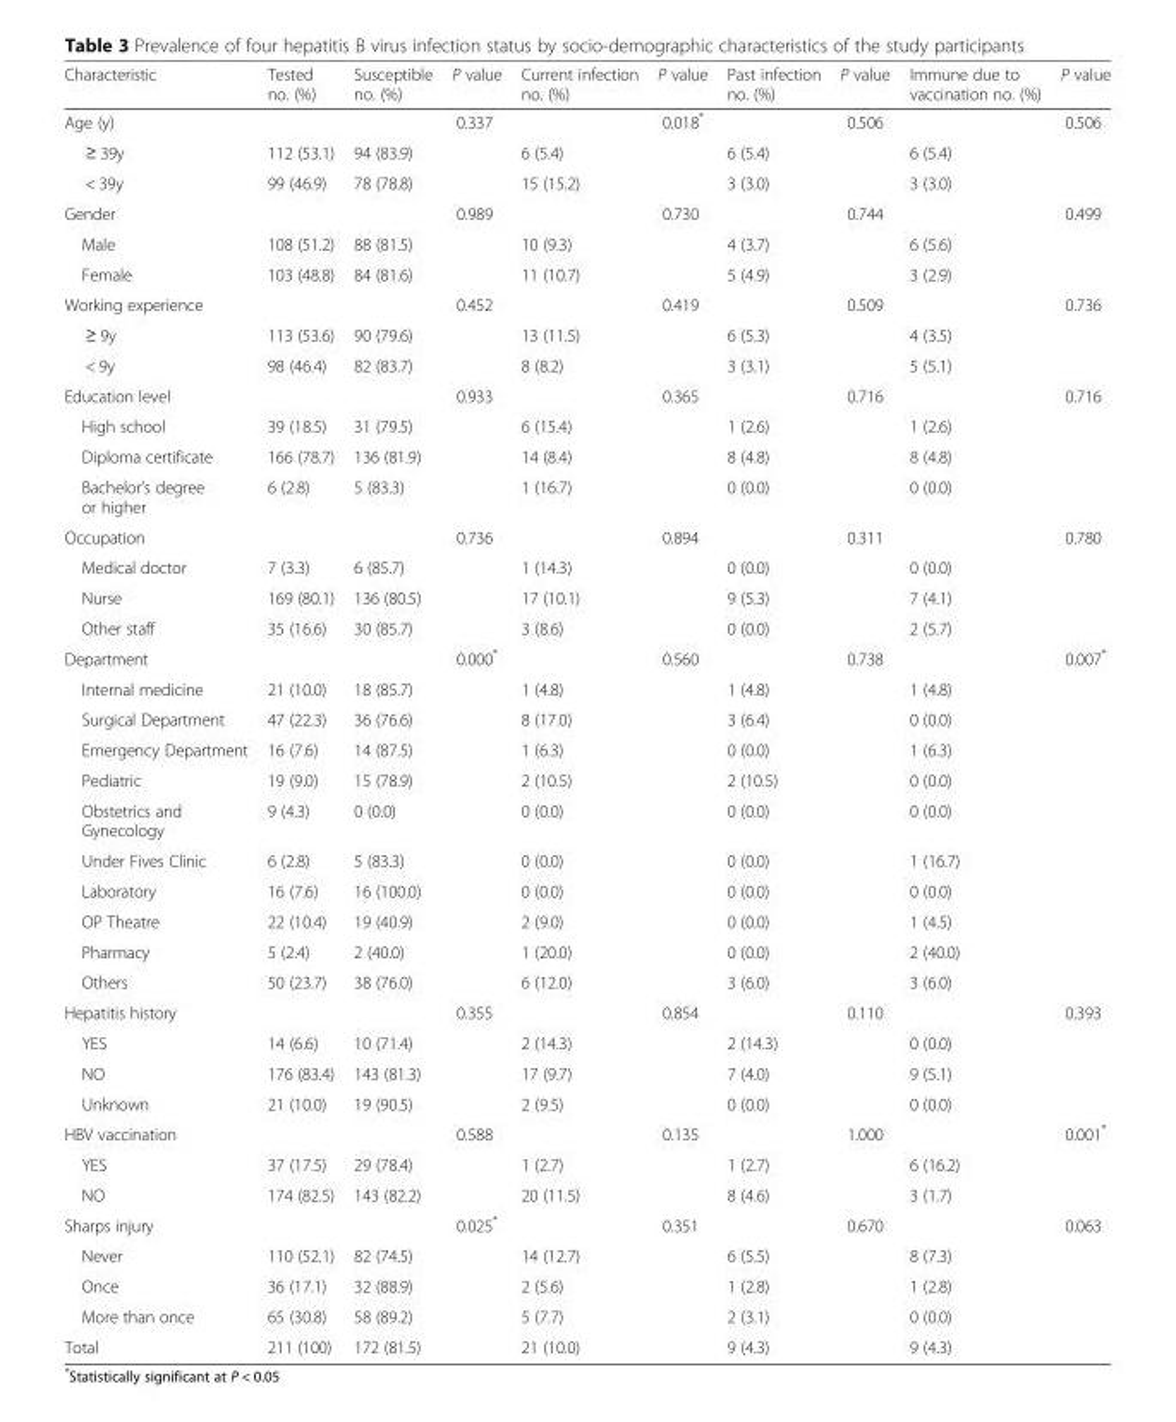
<table><thead><tr><td>Characteristic</td><td>Tested no. (%)</td><td>Susceptible no. (%)</td><td>P value</td><td>Current infection no. (%)</td><td>P value</td><td>Past infection no. (%)</td><td>P value</td><td>Immune due to vaccination no. (%)</td><td>P value</td></tr></thead><tbody><tr><td>Age (y)</td><td></td><td></td><td>0.337</td><td></td><td>0.018*</td><td></td><td>0.506</td><td></td><td>0.506</td></tr><tr><td>≥ 39y</td><td>112 (53.1)</td><td>94 (83.9)</td><td rowspan="2"></td><td>6 (5.4)</td><td rowspan="2"></td><td>6 (5.4)</td><td rowspan="2"></td><td>6 (5.4)</td><td rowspan="2"></td></tr><tr><td>&lt; 39y</td><td>99 (46.9)</td><td>78 (78.8)</td><td>15 (15.2)</td><td>3 (3.0)</td><td>3 (3.0)</td></tr><tr><td>Gender</td><td></td><td></td><td>0.989</td><td></td><td>0.730</td><td></td><td>0.744</td><td></td><td>0.499</td></tr><tr><td>Male</td><td>108 (51.2)</td><td>88 (81.5)</td><td rowspan="2"></td><td>10 (9.3)</td><td rowspan="2"></td><td>4 (3.7)</td><td rowspan="2"></td><td>6 (5.6)</td><td rowspan="2"></td></tr><tr><td>Female</td><td>103 (48.8)</td><td>84 (81.6)</td><td>11 (10.7)</td><td>5 (4.9)</td><td>3 (2.9)</td></tr><tr><td>Working experience</td><td></td><td></td><td>0.452</td><td></td><td>0.419</td><td></td><td>0.509</td><td></td><td>0.736</td></tr><tr><td>≥ 9y</td><td>113 (53.6)</td><td>90 (79.6)</td><td rowspan="2"></td><td>13 (11.5)</td><td rowspan="2"></td><td>6 (5.3)</td><td rowspan="2"></td><td>4 (3.5)</td><td rowspan="2"></td></tr><tr><td>&lt; 9y</td><td>98 (46.4)</td><td>82 (83.7)</td><td>8 (8.2)</td><td>3 (3.1)</td><td>5 (5.1)</td></tr><tr><td>Education level</td><td></td><td></td><td>0.933</td><td></td><td>0.365</td><td></td><td>0.716</td><td></td><td>0.716</td></tr><tr><td>High school</td><td>39 (18.5)</td><td>31 (79.5)</td><td rowspan="3"></td><td>6 (15.4)</td><td rowspan="3"></td><td>1 (2.6)</td><td rowspan="3"></td><td>1 (2.6)</td><td rowspan="3"></td></tr><tr><td>Diploma certificate</td><td>166 (78.7)</td><td>136 (81.9)</td><td>14 (8.4)</td><td>8 (4.8)</td><td>8 (4.8)</td></tr><tr><td>Bachelor’s degree or higher</td><td>6 (2.8)</td><td>5 (83.3)</td><td>1 (16.7)</td><td>0 (0.0)</td><td>0 (0.0)</td></tr><tr><td>Occupation</td><td></td><td></td><td>0.736</td><td></td><td>0.894</td><td></td><td>0.311</td><td></td><td>0.780</td></tr><tr><td>Medical doctor</td><td>7 (3.3)</td><td>6 (85.7)</td><td></td><td>1 (14.3)</td><td></td><td>0 (0.0)</td><td></td><td>0 (0.0)</td><td></td></tr><tr><td>Nurse</td><td>169 (80.1)</td><td>136 (80.5)</td><td rowspan="2"></td><td>17 (10.1)</td><td rowspan="2"></td><td>9 (5.3)</td><td rowspan="2"></td><td>7 (4.1)</td><td rowspan="2"></td></tr><tr><td>Other staff</td><td>35 (16.6)</td><td>30 (85.7)</td><td>3 (8.6)</td><td>0 (0.0)</td><td>2 (5.7)</td></tr><tr><td>Department</td><td></td><td></td><td>0.000*</td><td></td><td>0.560</td><td></td><td>0.738</td><td></td><td>0.007*</td></tr><tr><td>Internal medicine</td><td>21 (10.0)</td><td>18 (85.7)</td><td rowspan="10"></td><td>1 (4.8)</td><td rowspan="10"></td><td>1 (4.8)</td><td rowspan="10"></td><td>1 (4.8)</td><td rowspan="10"></td></tr><tr><td>Surgical Department</td><td>47 (22.3)</td><td>36 (76.6)</td><td>8 (17.0)</td><td>3 (6.4)</td><td>0 (0.0)</td></tr><tr><td>Emergency Department</td><td>16 (7.6)</td><td>14 (87.5)</td><td>1 (6.3)</td><td>0 (0.0)</td><td>1 (6.3)</td></tr><tr><td>Pediatric</td><td>19 (9.0)</td><td>15 (78.9)</td><td>2 (10.5)</td><td>2 (10.5)</td><td>0 (0.0)</td></tr><tr><td>Obstetrics and Gynecology</td><td>9 (4.3)</td><td>0 (0.0)</td><td>0 (0.0)</td><td>0 (0.0)</td><td>0 (0.0)</td></tr><tr><td>Under Fives Clinic</td><td>6 (2.8)</td><td>5 (83.3)</td><td>0 (0.0)</td><td>0 (0.0)</td><td>1 (16.7)</td></tr><tr><td>Laboratory</td><td>16 (7.6)</td><td>16 (100.0)</td><td>0 (0.0)</td><td>0 (0.0)</td><td>0 (0.0)</td></tr><tr><td>OP Theatre</td><td>22 (10.4)</td><td>19 (40.9)</td><td>2 (9.0)</td><td>0 (0.0)</td><td>1 (4.5)</td></tr><tr><td>Pharmacy</td><td>5 (2.4)</td><td>2 (40.0)</td><td>1 (20.0)</td><td>0 (0.0)</td><td>2 (40.0)</td></tr><tr><td>Others</td><td>50 (23.7)</td><td>38 (76.0)</td><td>6 (12.0)</td><td>3 (6.0)</td><td>3 (6.0)</td></tr><tr><td>Hepatitis history</td><td></td><td></td><td>0.355</td><td></td><td>0.854</td><td></td><td>0.110</td><td></td><td>0.393</td></tr><tr><td>YES</td><td>14 (6.6)</td><td>10 (71.4)</td><td rowspan="3"></td><td>2 (14.3)</td><td rowspan="3"></td><td>2 (14.3)</td><td rowspan="3"></td><td>0 (0.0)</td><td rowspan="3"></td></tr><tr><td>NO</td><td>176 (83.4)</td><td>143 (81.3)</td><td>17 (9.7)</td><td>7 (4.0)</td><td>9 (5.1)</td></tr><tr><td>Unknown</td><td>21 (10.0)</td><td>19 (90.5)</td><td>2 (9.5)</td><td>0 (0.0)</td><td>0 (0.0)</td></tr><tr><td>HBV vaccination</td><td></td><td></td><td>0.588</td><td></td><td>0.135</td><td></td><td>1.000</td><td></td><td>0.001*</td></tr><tr><td>YES</td><td>37 (17.5)</td><td>29 (78.4)</td><td rowspan="2"></td><td>1 (2.7)</td><td rowspan="2"></td><td>1 (2.7)</td><td rowspan="2"></td><td>6 (16.2)</td><td rowspan="2"></td></tr><tr><td>NO</td><td>174 (82.5)</td><td>143 (82.2)</td><td>20 (11.5)</td><td>8 (4.6)</td><td>3 (1.7)</td></tr><tr><td>Sharps injury</td><td></td><td></td><td>0.025*</td><td></td><td>0.351</td><td></td><td>0.670</td><td></td><td>0.063</td></tr><tr><td>Never</td><td>110 (52.1)</td><td>82 (74.5)</td><td rowspan="3"></td><td>14 (12.7)</td><td rowspan="3"></td><td>6 (5.5)</td><td rowspan="3"></td><td>8 (7.3)</td><td rowspan="3"></td></tr><tr><td>Once</td><td>36 (17.1)</td><td>32 (88.9)</td><td>2 (5.6)</td><td>1 (2.8)</td><td>1 (2.8)</td></tr><tr><td>More than once</td><td>65 (30.8)</td><td>58 (89.2)</td><td>5 (7.7)</td><td>2 (3.1)</td><td>0 (0.0)</td></tr><tr><td>Total</td><td>211 (100)</td><td>172 (81.5)</td><td></td><td>21 (10.0)</td><td></td><td>9 (4.3)</td><td></td><td>9 (4.3)</td><td></td></tr></tbody></table>